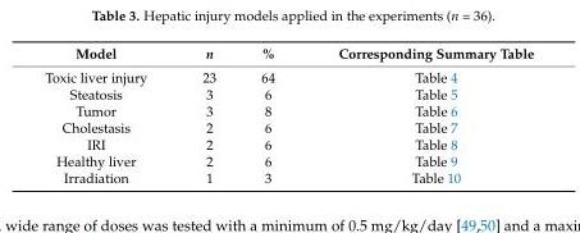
<table><thead><tr><td>Model</td><td>n</td><td>%</td><td>Corresponding Summary Table</td></tr></thead><tbody><tr><td>Toxic liver injury</td><td>23</td><td>64</td><td>Table 4</td></tr><tr><td>Steatosis</td><td>3</td><td>6</td><td>Table 5</td></tr><tr><td>Tumor</td><td>3</td><td>8</td><td>Table 6</td></tr><tr><td>Cholestasis</td><td>2</td><td>6</td><td>Table 7</td></tr><tr><td>IRI</td><td>2</td><td>6</td><td>Table 8</td></tr><tr><td>Healthy liver</td><td>2</td><td>6</td><td>Table 9</td></tr><tr><td>Irradiation</td><td>1</td><td>3</td><td>Table 10</td></tr></tbody></table>